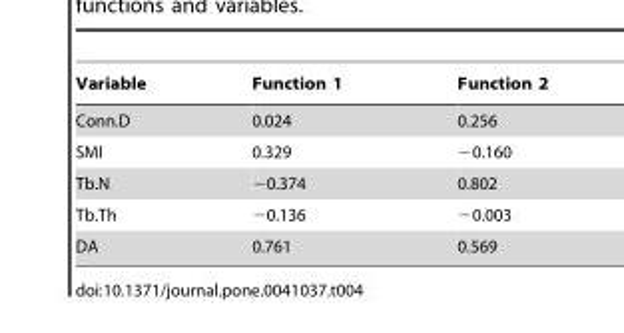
<table><thead><tr><td>Variable</td><td>Function 1</td><td>Function 2</td></tr></thead><tbody><tr><td>Conn.D</td><td>0.024</td><td>0.256</td></tr><tr><td>SMI</td><td>0.329</td><td>−0.160</td></tr><tr><td>Tb.N</td><td>−0.374</td><td>0.802</td></tr><tr><td>Tb.Th</td><td>−0.136</td><td>−0.003</td></tr><tr><td>DA</td><td>0.761</td><td>0.569</td></tr></tbody></table>